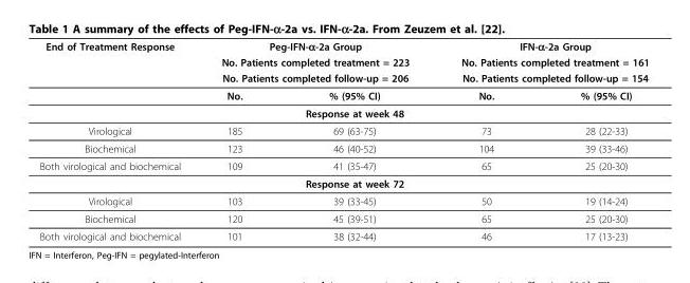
<table><thead><tr><td rowspan="4">End of Treatment Response</td><td rowspan="3" colspan="2">Peg-IFN-α-2a Group No. Patients completed treatment = 223 No. Patients completed follow-up = 206</td><td rowspan="3" colspan="2">IFN-α-2a Group No. Patients completed treatment = 161 No. Patients completed follow-up = 154</td></tr><tr></tr><tr></tr><tr><td>No.</td><td>% (95% CI)</td><td>No.</td><td>% (95% CI)</td></tr></thead><tbody><tr><td></td><td></td><td>Response at week 48</td><td></td><td></td></tr><tr><td>Virological</td><td>185</td><td>69 (63-75)</td><td>73</td><td>28 (22-33)</td></tr><tr><td>Biochemical</td><td>123</td><td>46 (40-52)</td><td>104</td><td>39 (33-46)</td></tr><tr><td rowspan="2">Both virological and biochemical</td><td>109</td><td>41 (35-47)</td><td>65</td><td>25 (20-30)</td></tr><tr><td></td><td>Response at week 72</td><td></td><td></td></tr><tr><td>Virological</td><td>103</td><td>39 (33-45)</td><td>50</td><td>19 (14-24)</td></tr><tr><td>Biochemical</td><td>120</td><td>45 (39-51)</td><td>65</td><td>25 (20-30)</td></tr><tr><td>Both virological and biochemical</td><td>101</td><td>38 (32-44)</td><td>46</td><td>17 (13-23)</td></tr></tbody></table>